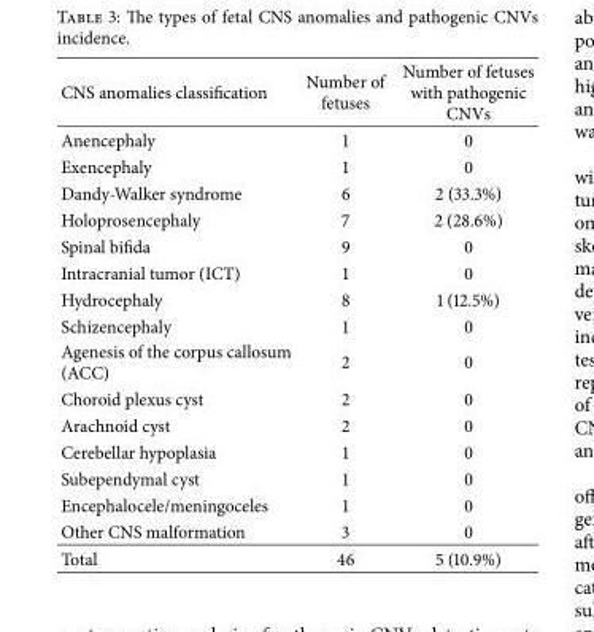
<table><thead><tr><td>CNS anomalies classification</td><td>Number of fetuses</td><td>Number of fetuses with pathogenic CNVs</td></tr></thead><tbody><tr><td>Anencephaly</td><td>1</td><td>0</td></tr><tr><td>Exencephaly</td><td>1</td><td>0</td></tr><tr><td>Dandy-Walker syndrome</td><td>6</td><td>2 (33.3%)</td></tr><tr><td>Holoprosencephaly</td><td>7</td><td>2 (28.6%)</td></tr><tr><td>Spinal bifida</td><td>9</td><td>0</td></tr><tr><td>Intracranial tumor (ICT)</td><td>1</td><td>0</td></tr><tr><td>Hydrocephaly</td><td>8</td><td>1 (12.5%)</td></tr><tr><td>Schizencephaly</td><td>1</td><td>0</td></tr><tr><td>Agenesis of the corpus callosum (ACC)</td><td>2</td><td>0</td></tr><tr><td>Choroid plexus cyst</td><td>2</td><td>0</td></tr><tr><td>Arachnoid cyst</td><td>2</td><td>0</td></tr><tr><td>Cerebellar hypoplasia</td><td>1</td><td>0</td></tr><tr><td>Subependymal cyst</td><td>1</td><td>0</td></tr><tr><td>Encephalocele/meningoceles</td><td>1</td><td>0</td></tr><tr><td>Other CNS malformation</td><td>3</td><td>0</td></tr><tr><td>Total</td><td>46</td><td>5 (10.9%)</td></tr></tbody></table>